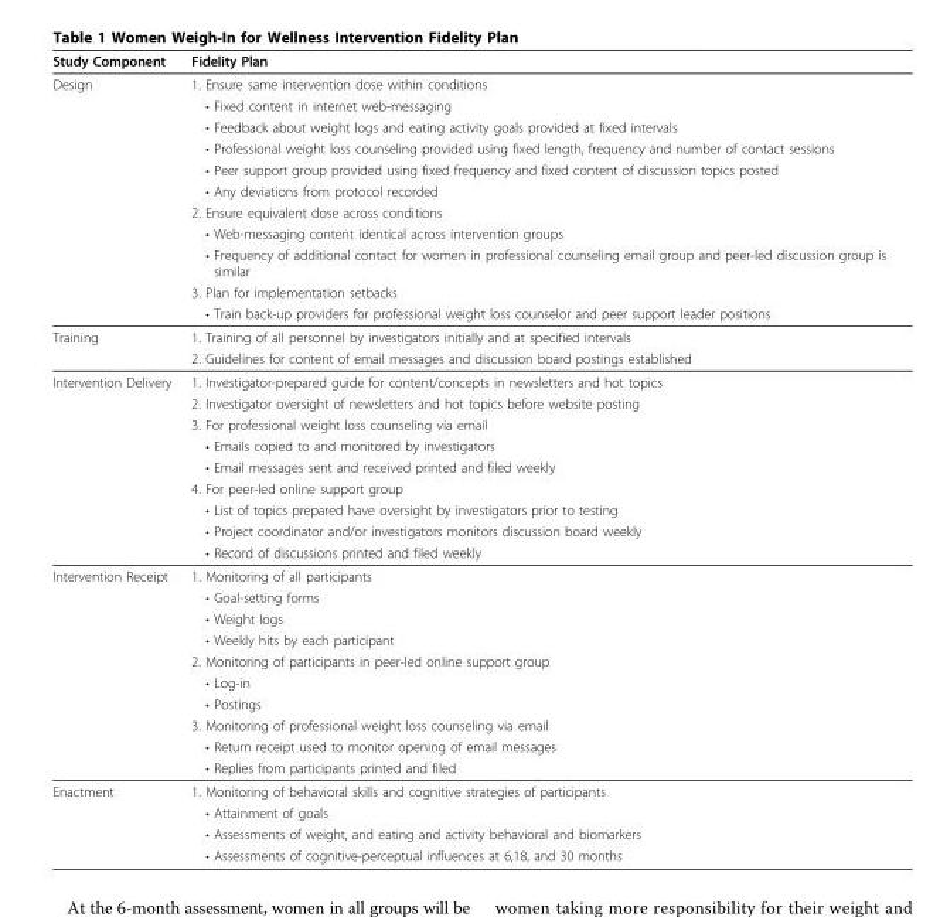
<table><thead><tr><td>Study Component</td><td>Fidelity Plan</td></tr></thead><tbody><tr><td rowspan="11">Design</td><td>1. Ensure same intervention dose within conditions</td></tr><tr><td>• Fixed content in internet web-messaging</td></tr><tr><td>• Feedback about weight logs and eating activity goals provided at fixed intervals</td></tr><tr><td>• Professional weight loss counseling provided using fixed length, frequency and number of contact sessions</td></tr><tr><td>• Peer support group provided using fixed frequency and fixed content of discussion topics posted</td></tr><tr><td>• Any deviations from protocol recorded</td></tr><tr><td>2. Ensure equivalent dose across conditions</td></tr><tr><td>• Web-messaging content identical across intervention groups</td></tr><tr><td>• Frequency of additional contact for women in professional counseling email group and peer-led discussion group is similar</td></tr><tr><td>3. Plan for implementation setbacks</td></tr><tr><td>• Train back-up providers for professional weight loss counselor and peer support leader positions</td></tr><tr><td rowspan="2">Training</td><td>1. Training of all personnel by investigators initially and at specified intervals</td></tr><tr><td>2. Guidelines for content of email messages and discussion board postings established</td></tr><tr><td rowspan="9">Intervention Delivery</td><td>1. Investigator-prepared guide for content/concepts in newsletters and hot topics</td></tr><tr><td>2. Investigator oversight of newsletters and hot topics before website posting</td></tr><tr><td>3. For professional weight loss counseling via email</td></tr><tr><td>• Emails copied to and monitored by investigators</td></tr><tr><td>• Email messages sent and received printed and filed weekly</td></tr><tr><td>4. For peer-led online support group</td></tr><tr><td>• List of topics prepared have oversight by investigators prior to testing</td></tr><tr><td>• Project coordinator and/or investigators monitors discussion board weekly</td></tr><tr><td>• Record of discussions printed and filed weekly</td></tr><tr><td rowspan="10">Intervention Receipt</td><td>1. Monitoring of all participants</td></tr><tr><td>• Goal-setting forms</td></tr><tr><td>• Weight logs</td></tr><tr><td>• Weekly hits by each participant</td></tr><tr><td>2. Monitoring of participants in peer-led online support group</td></tr><tr><td>• Log-in</td></tr><tr><td>• Postings</td></tr><tr><td>3. Monitoring of professional weight loss counseling via email</td></tr><tr><td>• Return receipt used to monitor opening of email messages</td></tr><tr><td>• Replies from participants printed and filed</td></tr><tr><td rowspan="4">Enactment</td><td>1. Monitoring of behavioral skills and cognitive strategies of participants</td></tr><tr><td>• Attainment of goals</td></tr><tr><td>• Assessments of weight, and eating and activity behavioral and biomarkers</td></tr><tr><td>• Assessments of cognitive-perceptual influences at 6,18, and 30 months</td></tr></tbody></table>